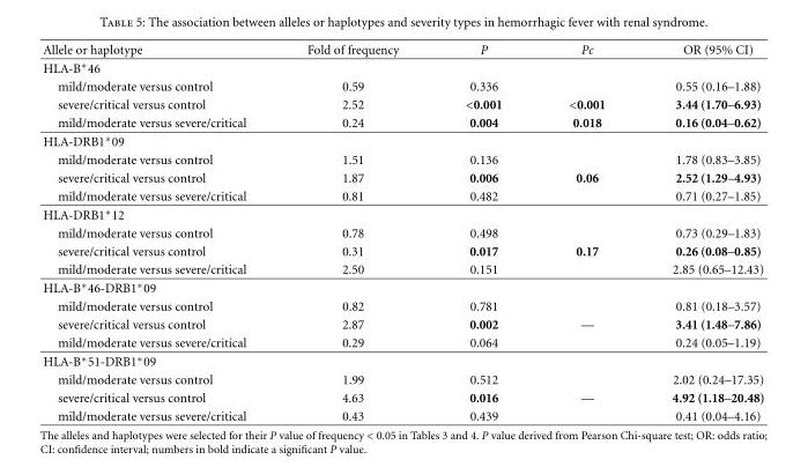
<table><thead><tr><td>Allele or haplotype</td><td>Fold of frequency</td><td>P</td><td>Pc</td><td>OR (95% CI)</td></tr></thead><tbody><tr><td colspan="5">HLA-B∗46</td></tr><tr><td>mild/moderate versus control</td><td>0.59</td><td>0.336</td><td></td><td>0.55 (0.16–1.88)</td></tr><tr><td>severe/critical versus control</td><td>2.52</td><td>&lt;0.001</td><td>&lt;0.001</td><td>3.44 (1.70–6.93)</td></tr><tr><td>mild/moderate versus severe/critical</td><td>0.24</td><td>0.004</td><td>0.018</td><td>0.16 (0.04–0.62)</td></tr><tr><td colspan="5">HLA-DRB1∗09</td></tr><tr><td>mild/moderate versus control</td><td>1.51</td><td>0.136</td><td></td><td>1.78 (0.83–3.85)</td></tr><tr><td>severe/critical versus control</td><td>1.87</td><td>0.006</td><td>0.06</td><td>2.52 (1.29–4.93)</td></tr><tr><td>mild/moderate versus severe/critical</td><td>0.81</td><td>0.482</td><td></td><td>0.71 (0.27–1.85)</td></tr><tr><td colspan="5">HLA-DRB1∗12</td></tr><tr><td>mild/moderate versus control</td><td>0.78</td><td>0.498</td><td></td><td>0.73 (0.29–1.83)</td></tr><tr><td>severe/critical versus control</td><td>0.31</td><td>0.017</td><td>0.17</td><td>0.26 (0.08–0.85)</td></tr><tr><td>mild/moderate versus severe/critical</td><td>2.50</td><td>0.151</td><td></td><td>2.85 (0.65–12.43)</td></tr><tr><td colspan="5">HLA-B∗46-DRB1∗09</td></tr><tr><td>mild/moderate versus control</td><td>0.82</td><td>0.781</td><td></td><td>0.81 (0.18–3.57)</td></tr><tr><td>severe/critical versus control</td><td>2.87</td><td>0.002</td><td>—</td><td>3.41 (1.48–7.86)</td></tr><tr><td>mild/moderate versus severe/critical</td><td>0.29</td><td>0.064</td><td></td><td>0.24 (0.05–1.19)</td></tr><tr><td colspan="5">HLA-B∗51-DRB1∗09</td></tr><tr><td>mild/moderate versus control</td><td>1.99</td><td>0.512</td><td></td><td>2.02 (0.24–17.35)</td></tr><tr><td>severe/critical versus control</td><td>4.63</td><td>0.016</td><td>—</td><td>4.92 (1.18–20.48)</td></tr><tr><td>mild/moderate versus severe/critical</td><td>0.43</td><td>0.439</td><td></td><td>0.41 (0.04–4.16)</td></tr></tbody></table>